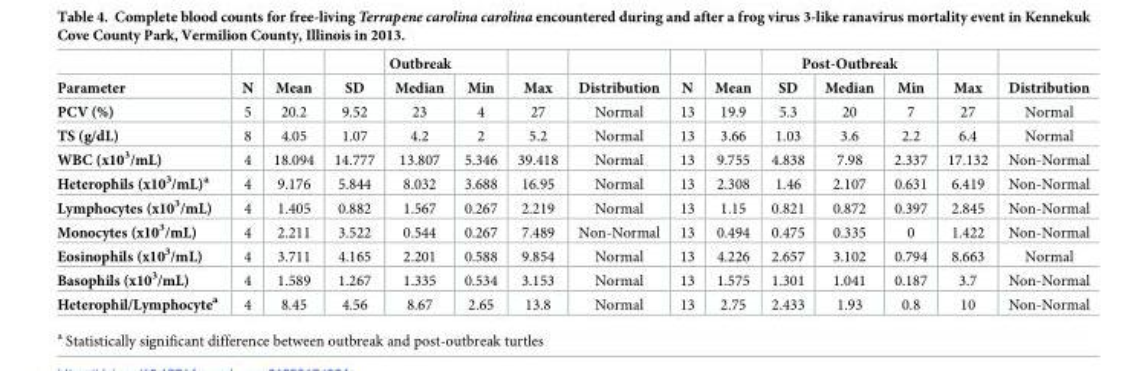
<table><thead><tr><td rowspan="2">Parameter</td><td rowspan="2">N</td><td rowspan="2">Mean</td><td rowspan="2">SD</td><td colspan="2">Outbreak</td><td rowspan="2">Max</td><td rowspan="2">Distribution</td><td rowspan="2">N</td><td rowspan="2">Mean</td><td colspan="3">Post-Outbreak</td><td rowspan="2">Max</td><td rowspan="2">Distribution</td></tr><tr><td>Median</td><td>Min</td><td>SD</td><td>Median</td><td>Min</td></tr></thead><tbody><tr><td>PCV (%)</td><td>5</td><td>20.2</td><td>9.52</td><td>23</td><td>4</td><td>27</td><td>Normal</td><td>13</td><td>19.9</td><td>5.3</td><td>20</td><td>7</td><td>27</td><td>Normal</td></tr><tr><td>TS (g/dL)</td><td>8</td><td>4.05</td><td>1.07</td><td>4.2</td><td>2</td><td>5.2</td><td>Normal</td><td>13</td><td>3.66</td><td>1.03</td><td>3.6</td><td>2.2</td><td>6.4</td><td>Normal</td></tr><tr><td>WBC (x10<sup>3</sup>/mL)</td><td>4</td><td>18.094</td><td>14.777</td><td>13.807</td><td>5.346</td><td>39.418</td><td>Normal</td><td>13</td><td>9.755</td><td>4.838</td><td>7.98</td><td>2.337</td><td>17.132</td><td>Non-Normal</td></tr><tr><td>Heterophils (x10<sup>3</sup>/mL)<sup>a</sup></td><td>4</td><td>9.176</td><td>5.844</td><td>8.032</td><td>3.688</td><td>16.95</td><td>Normal</td><td>13</td><td>2.308</td><td>1.46</td><td>2.107</td><td>0.631</td><td>6.419</td><td>Non-Normal</td></tr><tr><td>Lymphocytes (x10<sup>3</sup>/mL)</td><td>4</td><td>1.405</td><td>0.882</td><td>1.567</td><td>0.267</td><td>2.219</td><td>Normal</td><td>13</td><td>1.15</td><td>0.821</td><td>0.872</td><td>0.397</td><td>2.845</td><td>Non-Normal</td></tr><tr><td>Monocytes (x10<sup>3</sup>/mL)</td><td>4</td><td>2.211</td><td>3.522</td><td>0.544</td><td>0.267</td><td>7.489</td><td>Non-Normal</td><td>13</td><td>0.494</td><td>0.475</td><td>0.335</td><td>0</td><td>1.422</td><td>Non-Normal</td></tr><tr><td>Eosinophils (x10<sup>3</sup>/mL)</td><td>4</td><td>3.711</td><td>4.165</td><td>2.201</td><td>0.588</td><td>9.854</td><td>Normal</td><td>13</td><td>4.226</td><td>2.657</td><td>3.102</td><td>0.794</td><td>8.663</td><td>Normal</td></tr><tr><td>Basophils (x10<sup>3</sup>/mL)</td><td>4</td><td>1.589</td><td>1.267</td><td>1.335</td><td>0.534</td><td>3.153</td><td>Normal</td><td>13</td><td>1.575</td><td>1.301</td><td>1.041</td><td>0.187</td><td>3.7</td><td>Non-Normal</td></tr><tr><td>Heterophil/Lymphocyte<sup>a</sup></td><td>4</td><td>8.45</td><td>4.56</td><td>8.67</td><td>2.65</td><td>13.8</td><td>Normal</td><td>13</td><td>2.75</td><td>2.433</td><td>1.93</td><td>0.8</td><td>10</td><td>Non-Normal</td></tr></tbody></table>